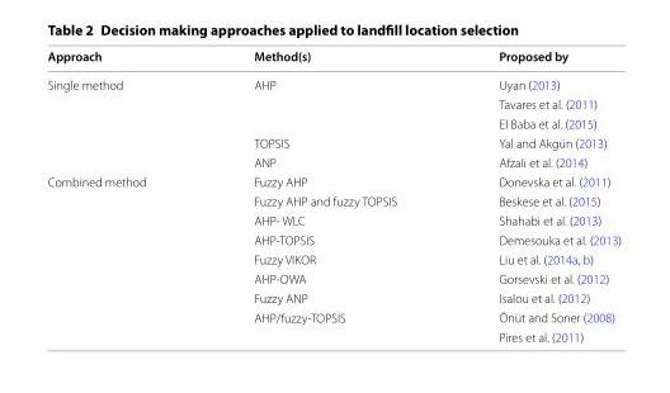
<table><thead><tr><td>Approach</td><td>Method(s)</td><td>Proposed by</td></tr></thead><tbody><tr><td rowspan="5">Single method</td><td>AHP</td><td>Uyan (2013)</td></tr><tr><td></td><td>Tavares et al. (2011)</td></tr><tr><td></td><td>El Baba et al. (2015)</td></tr><tr><td>TOPSIS</td><td>Yal and Akgün (2013)</td></tr><tr><td>ANP</td><td>Afzali et al. (2014)</td></tr><tr><td rowspan="9">Combined method</td><td>Fuzzy AHP</td><td>Donevska et al. (2011)</td></tr><tr><td>Fuzzy AHP and fuzzy TOPSIS</td><td>Beskese et al. (2015)</td></tr><tr><td>AHP- WLC</td><td>Shahabi et al. (2013)</td></tr><tr><td>AHP-TOPSIS</td><td>Demesouka et al. (2013)</td></tr><tr><td>Fuzzy VIKOR</td><td>Liu et al. (2014a, b)</td></tr><tr><td>AHP-OWA</td><td>Gorsevski et al. (2012)</td></tr><tr><td>Fuzzy ANP</td><td>Isalou et al. (2012)</td></tr><tr><td rowspan="2">AHP/fuzzy-TOPSIS</td><td>Önüt and Soner (2008)</td></tr><tr><td>Pires et al. (2011)</td></tr></tbody></table>